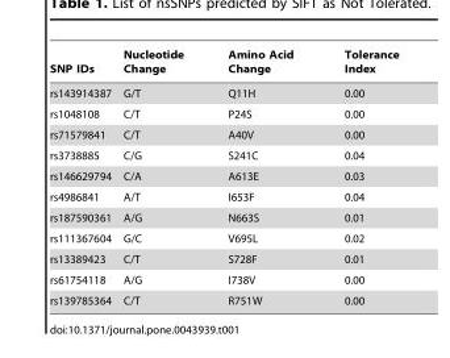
<table><thead><tr><td>SNP IDs</td><td>Nucleotide Change</td><td>Amino Acid Change</td><td>Tolerance Index</td></tr></thead><tbody><tr><td>rs143914387</td><td>G/T</td><td>Q11H</td><td>0.00</td></tr><tr><td>rs1048108</td><td>C/T</td><td>P24S</td><td>0.00</td></tr><tr><td>rs71579841</td><td>C/T</td><td>A40V</td><td>0.00</td></tr><tr><td>rs3738885</td><td>C/G</td><td>S241C</td><td>0.04</td></tr><tr><td>rs146629794</td><td>C/A</td><td>A613E</td><td>0.03</td></tr><tr><td>rs4986841</td><td>A/T</td><td>I653F</td><td>0.04</td></tr><tr><td>rs187590361</td><td>A/G</td><td>N663S</td><td>0.01</td></tr><tr><td>rs111367604</td><td>G/C</td><td>V695L</td><td>0.02</td></tr><tr><td>rs13389423</td><td>C/T</td><td>S728F</td><td>0.01</td></tr><tr><td>rs61754118</td><td>A/G</td><td>I738V</td><td>0.00</td></tr><tr><td>rs139785364</td><td>C/T</td><td>R751W</td><td>0.00</td></tr></tbody></table>